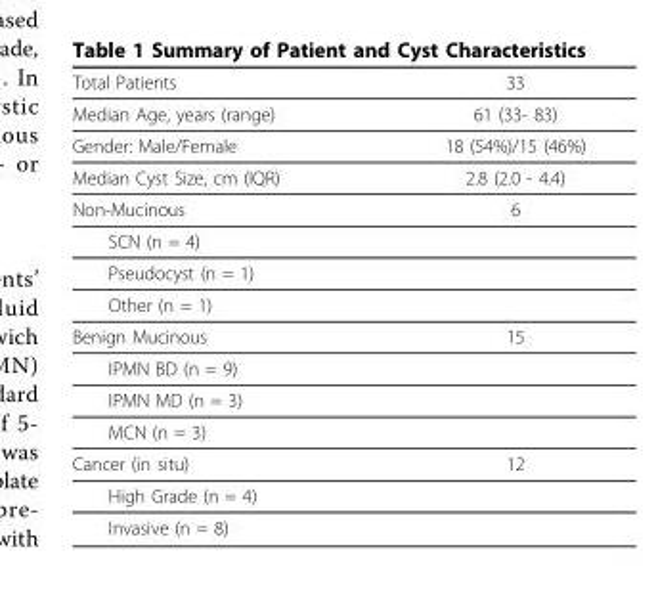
<table><thead><tr><td>Total Patients</td><td>33</td></tr></thead><tbody><tr><td>Median Age, years (range)</td><td>61 (33- 83)</td></tr><tr><td>Gender: Male/Female</td><td>18 (54%)/15 (46%)</td></tr><tr><td>Median Cyst Size, cm (IQR)</td><td>2.8 (2.0 - 4.4)</td></tr><tr><td>Non-Mucinous</td><td>6</td></tr><tr><td colspan="2">SCN (n = 4)</td></tr><tr><td colspan="2">Pseudocyst (n = 1)</td></tr><tr><td colspan="2">Other (n = 1)</td></tr><tr><td>Benign Mucinous</td><td>15</td></tr><tr><td colspan="2">IPMN BD (n = 9)</td></tr><tr><td colspan="2">IPMN MD (n = 3)</td></tr><tr><td colspan="2">MCN (n = 3)</td></tr><tr><td>Cancer (in situ)</td><td>12</td></tr><tr><td colspan="2">High Grade (n = 4)</td></tr><tr><td>Invasive (n = 8)</td><td></td></tr></tbody></table>